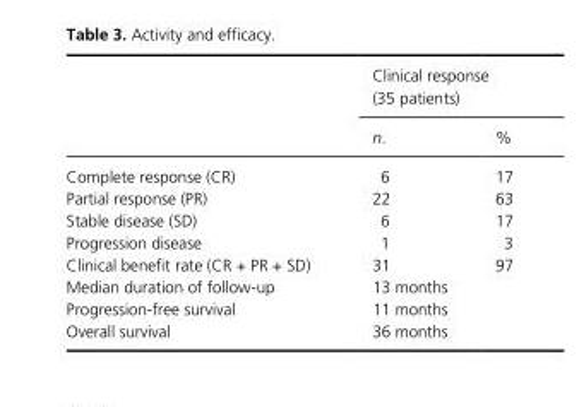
<table><thead><tr><td rowspan="2"></td><td colspan="2">Clinical response (35 patients)</td></tr><tr><td>n.</td><td>%</td></tr></thead><tbody><tr><td>Complete response (CR)</td><td>6</td><td>17</td></tr><tr><td>Partial response (PR)</td><td>22</td><td>63</td></tr><tr><td>Stable disease (SD)</td><td>6</td><td>17</td></tr><tr><td>Progression disease</td><td>1</td><td>3</td></tr><tr><td>Clinical benefit rate (CR + PR + SD)</td><td>31</td><td>97</td></tr><tr><td>Median duration of follow- up</td><td colspan="2">13 months</td></tr><tr><td>Progression- free survival</td><td colspan="2">11 months</td></tr><tr><td>Overall survival</td><td colspan="2">36 months</td></tr></tbody></table>